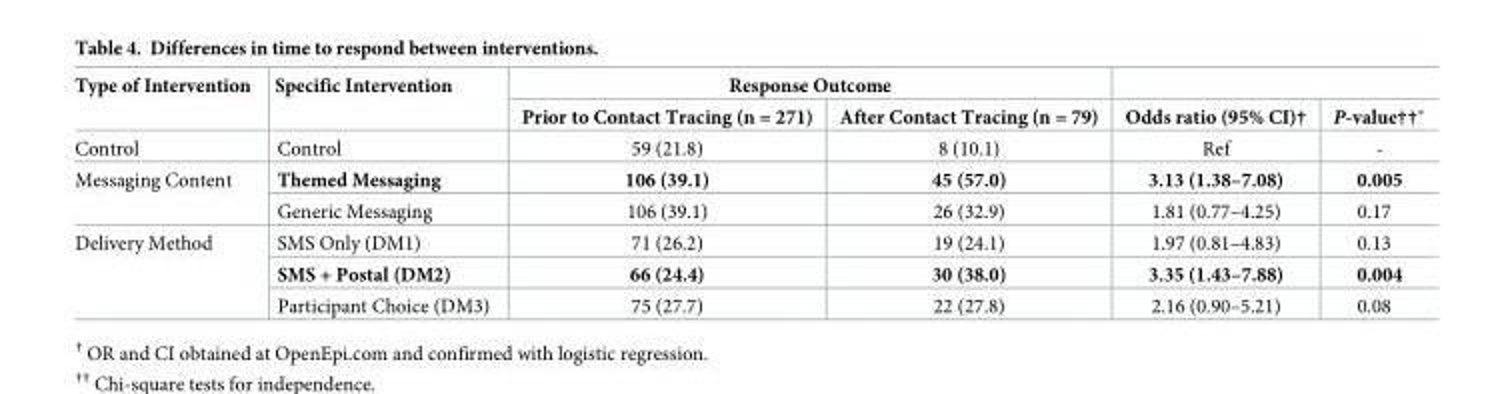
<table><thead><tr><td rowspan="2">Type of Intervention</td><td rowspan="2">Specific Intervention</td><td colspan="2">Response Outcome</td><td rowspan="2">Odds ratio (95% CI)†</td><td rowspan="2">P-value††*</td></tr><tr><td>Prior to Contact Tracing (n = 271)</td><td>After Contact Tracing (n = 79)</td></tr></thead><tbody><tr><td>Control</td><td>Control</td><td>59 (21.8)</td><td>8 (10.1)</td><td>Ref</td><td>-</td></tr><tr><td rowspan="2">Messaging Content</td><td>Themed Messaging</td><td>106 (39.1)</td><td>45 (57.0)</td><td>3.13 (1.38–7.08)</td><td>0.005</td></tr><tr><td>Generic Messaging</td><td>106 (39.1)</td><td>26 (32.9)</td><td>1.81 (0.77–4.25)</td><td>0.17</td></tr><tr><td rowspan="3">Delivery Method</td><td>SMS Only (DM1)</td><td>71 (26.2)</td><td>19 (24.1)</td><td>1.97 (0.81–4.83)</td><td>0.13</td></tr><tr><td>SMS + Postal (DM2)</td><td>66 (24.4)</td><td>30 (38.0)</td><td>3.35 (1.43–7.88)</td><td>0.004</td></tr><tr><td>Participant Choice (DM3)</td><td>75 (27.7)</td><td>22 (27.8)</td><td>2.16 (0.90–5.21)</td><td>0.08</td></tr></tbody></table>